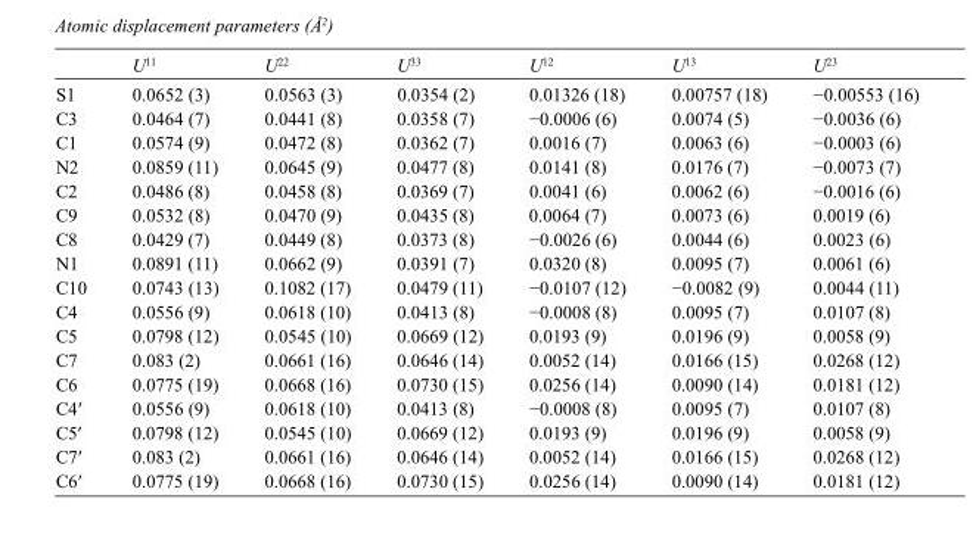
<table><thead><tr><td></td><td>U<sup>11</sup></td><td>U<sup>22</sup></td><td>U<sup>33</sup></td><td>U<sup>12</sup></td><td>U<sup>13</sup></td><td>U<sup>23</sup></td></tr></thead><tbody><tr><td>S1</td><td>0.0652 (3)</td><td>0.0563 (3)</td><td>0.0354 (2)</td><td>0.01326 (18)</td><td>0.00757 (18)</td><td>−0.00553 (16)</td></tr><tr><td>C3</td><td>0.0464 (7)</td><td>0.0441 (8)</td><td>0.0358 (7)</td><td>−0.0006 (6)</td><td>0.0074 (5)</td><td>−0.0036 (6)</td></tr><tr><td>C1</td><td>0.0574 (9)</td><td>0.0472 (8)</td><td>0.0362 (7)</td><td>0.0016 (7)</td><td>0.0063 (6)</td><td>−0.0003 (6)</td></tr><tr><td>N2</td><td>0.0859 (11)</td><td>0.0645 (9)</td><td>0.0477 (8)</td><td>0.0141 (8)</td><td>0.0176 (7)</td><td>−0.0073 (7)</td></tr><tr><td>C2</td><td>0.0486 (8)</td><td>0.0458 (8)</td><td>0.0369 (7)</td><td>0.0041 (6)</td><td>0.0062 (6)</td><td>−0.0016 (6)</td></tr><tr><td>C9</td><td>0.0532 (8)</td><td>0.0470 (9)</td><td>0.0435 (8)</td><td>0.0064 (7)</td><td>0.0073 (6)</td><td>0.0019 (6)</td></tr><tr><td>C8</td><td>0.0429 (7)</td><td>0.0449 (8)</td><td>0.0373 (8)</td><td>−0.0026 (6)</td><td>0.0044 (6)</td><td>0.0023 (6)</td></tr><tr><td>N1</td><td>0.0891 (11)</td><td>0.0662 (9)</td><td>0.0391 (7)</td><td>0.0320 (8)</td><td>0.0095 (7)</td><td>0.0061 (6)</td></tr><tr><td>C10</td><td>0.0743 (13)</td><td>0.1082 (17)</td><td>0.0479 (11)</td><td>−0.0107 (12)</td><td>−0.0082 (9)</td><td>0.0044 (11)</td></tr><tr><td>C4</td><td>0.0556 (9)</td><td>0.0618 (10)</td><td>0.0413 (8)</td><td>−0.0008 (8)</td><td>0.0095 (7)</td><td>0.0107 (8)</td></tr><tr><td>C5</td><td>0.0798 (12)</td><td>0.0545 (10)</td><td>0.0669 (12)</td><td>0.0193 (9)</td><td>0.0196 (9)</td><td>0.0058 (9)</td></tr><tr><td>C7</td><td>0.083 (2)</td><td>0.0661 (16)</td><td>0.0646 (14)</td><td>0.0052 (14)</td><td>0.0166 (15)</td><td>0.0268 (12)</td></tr><tr><td>C6</td><td>0.0775 (19)</td><td>0.0668 (16)</td><td>0.0730 (15)</td><td>0.0256 (14)</td><td>0.0090 (14)</td><td>0.0181 (12)</td></tr><tr><td>C4′</td><td>0.0556 (9)</td><td>0.0618 (10)</td><td>0.0413 (8)</td><td>−0.0008 (8)</td><td>0.0095 (7)</td><td>0.0107 (8)</td></tr><tr><td>C5′</td><td>0.0798 (12)</td><td>0.0545 (10)</td><td>0.0669 (12)</td><td>0.0193 (9)</td><td>0.0196 (9)</td><td>0.0058 (9)</td></tr><tr><td>C7′</td><td>0.083 (2)</td><td>0.0661 (16)</td><td>0.0646 (14)</td><td>0.0052 (14)</td><td>0.0166 (15)</td><td>0.0268 (12)</td></tr><tr><td>C6′</td><td>0.0775 (19)</td><td>0.0668 (16)</td><td>0.0730 (15)</td><td>0.0256 (14)</td><td>0.0090 (14)</td><td>0.0181 (12)</td></tr></tbody></table>